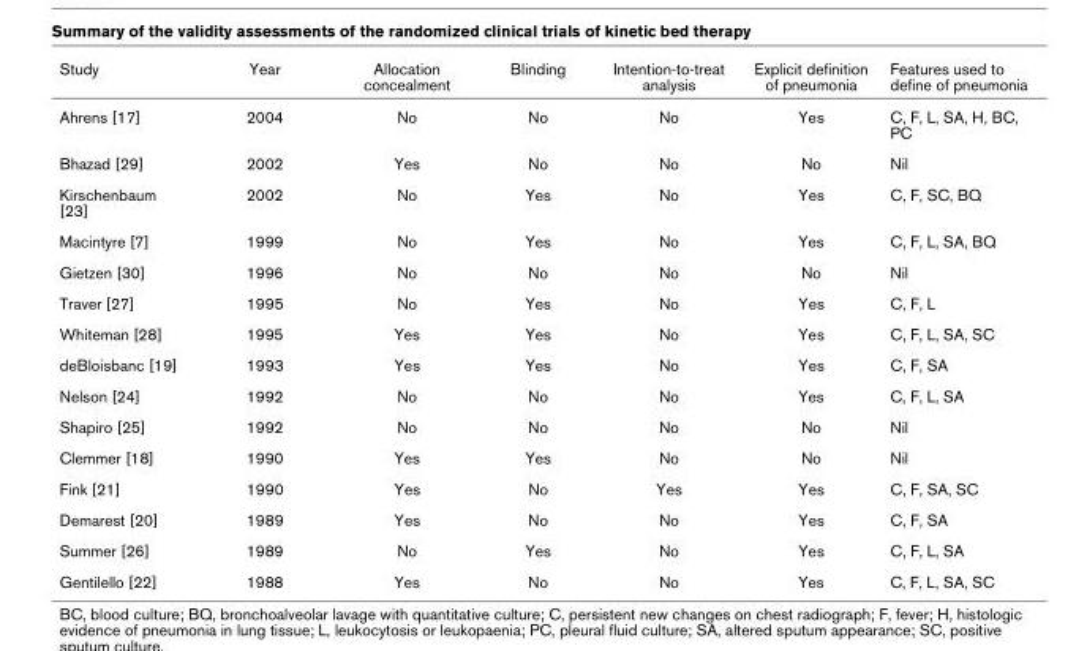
<table><thead><tr><td>Study</td><td>Year</td><td>Allocation concealment</td><td>Blinding</td><td>Intention-to-treat analysis</td><td>Explicit definition of pneumonia</td><td>Features used to define of pneumonia</td></tr></thead><tbody><tr><td>Ahrens [17]</td><td>2004</td><td>No</td><td>No</td><td>No</td><td>Yes</td><td>C, F, L, SA, H, BC, PC</td></tr><tr><td>Bhazad [29]</td><td>2002</td><td>Yes</td><td>No</td><td>No</td><td>No</td><td>Nil</td></tr><tr><td>Kirschenbaum [23]</td><td>2002</td><td>No</td><td>Yes</td><td>No</td><td>Yes</td><td>C, F, SC, BQ</td></tr><tr><td>Macintyre [7]</td><td>1999</td><td>No</td><td>Yes</td><td>No</td><td>Yes</td><td>C, F, L, SA, BQ</td></tr><tr><td>Gietzen [30]</td><td>1996</td><td>No</td><td>No</td><td>No</td><td>No</td><td>Nil</td></tr><tr><td>Traver [27]</td><td>1995</td><td>No</td><td>Yes</td><td>No</td><td>Yes</td><td>C, F, L</td></tr><tr><td>Whiteman [28]</td><td>1995</td><td>Yes</td><td>Yes</td><td>No</td><td>Yes</td><td>C, F, L, SA, SC</td></tr><tr><td>deBloisbanc [19]</td><td>1993</td><td>Yes</td><td>Yes</td><td>No</td><td>Yes</td><td>C, F, SA</td></tr><tr><td>Nelson [24]</td><td>1992</td><td>No</td><td>No</td><td>No</td><td>Yes</td><td>C, F, L, SA</td></tr><tr><td>Shapiro [25]</td><td>1992</td><td>No</td><td>No</td><td>No</td><td>No</td><td>Nil</td></tr><tr><td>Clemmer [18]</td><td>1990</td><td>Yes</td><td>Yes</td><td>No</td><td>No</td><td>Nil</td></tr><tr><td>Fink [21]</td><td>1990</td><td>Yes</td><td>No</td><td>Yes</td><td>Yes</td><td>C, F, SA, SC</td></tr><tr><td>Demarest [20]</td><td>1989</td><td>Yes</td><td>No</td><td>No</td><td>Yes</td><td>C, F, SA</td></tr><tr><td>Summer [26]</td><td>1989</td><td>No</td><td>Yes</td><td>No</td><td>Yes</td><td>C, F, L, SA</td></tr><tr><td>Gentilello [22]</td><td>1988</td><td>Yes</td><td>No</td><td>No</td><td>Yes</td><td>C, F, L, SA, SC</td></tr></tbody></table>